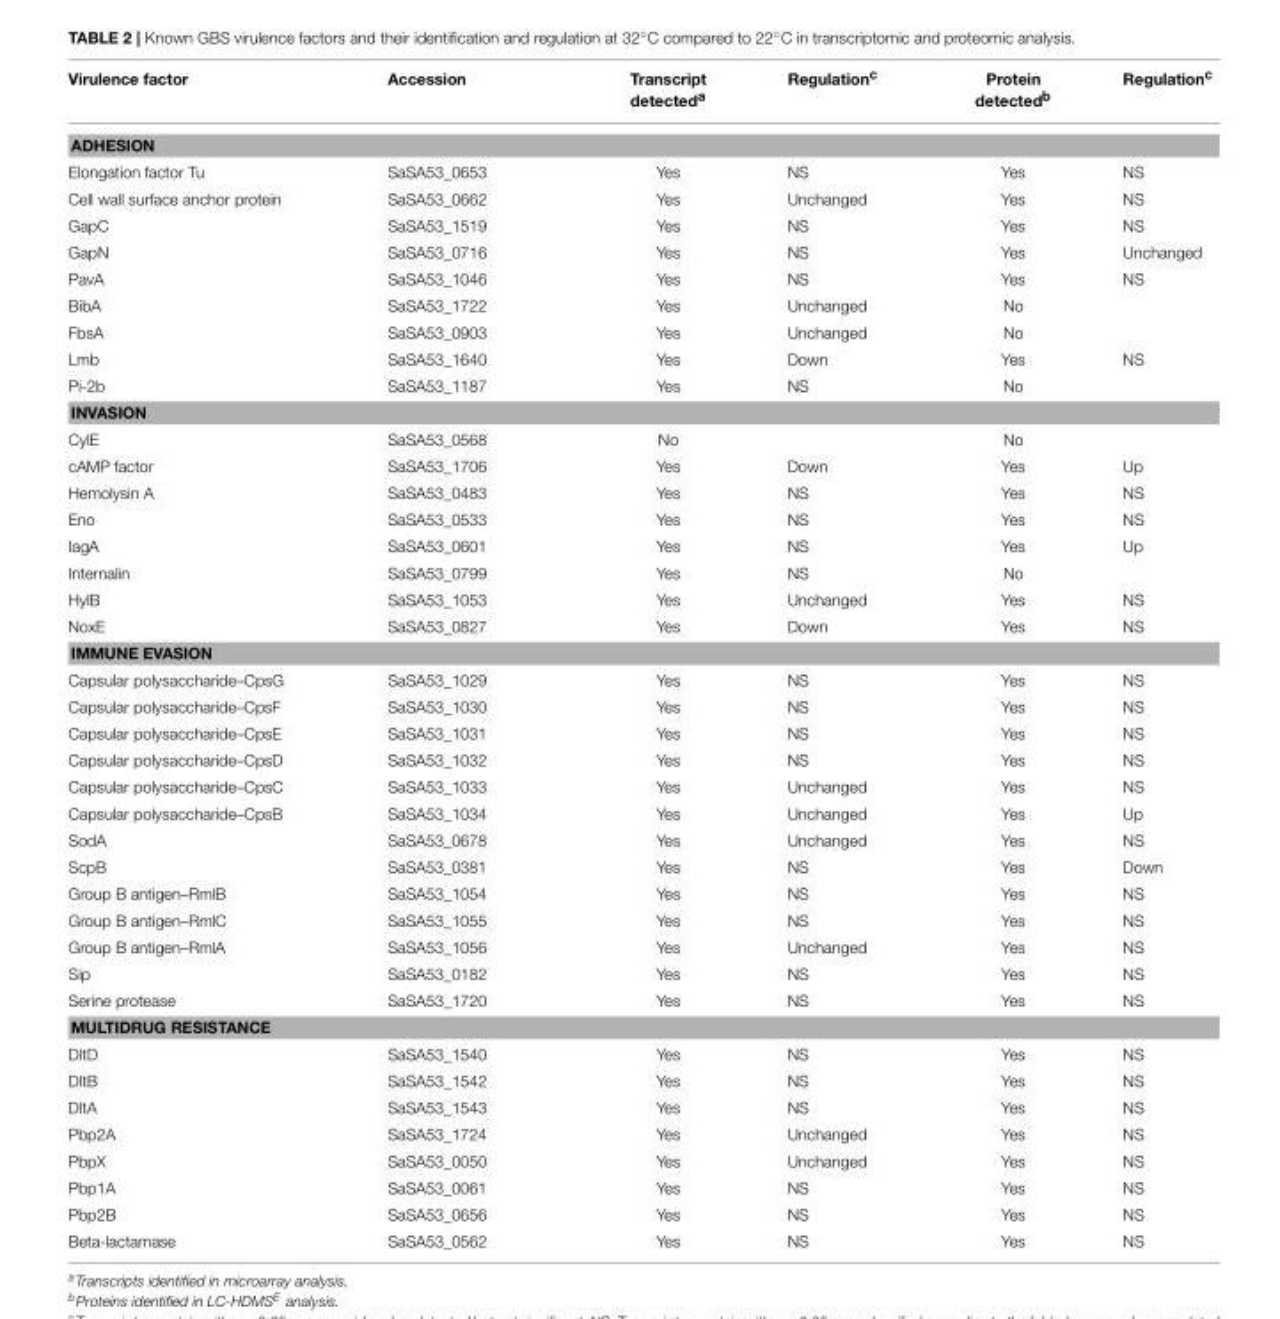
<table><thead><tr><td>Virulence factor</td><td>Accession</td><td>Transcript detected<sup>a</sup></td><td>Regulation<sup>c</sup></td><td>Protein detected<sup>b</sup></td><td>Regulation<sup>c</sup></td></tr></thead><tbody><tr><td colspan="6">ADHESION</td></tr><tr><td>Elongation factor Tu</td><td>SaSA53_0653</td><td>Yes</td><td>NS</td><td>Yes</td><td>NS</td></tr><tr><td>Cell wall surface anchor protein</td><td>SaSA53_0662</td><td>Yes</td><td>Unchanged</td><td>Yes</td><td>NS</td></tr><tr><td>GapC</td><td>SaSA53_1519</td><td>Yes</td><td>NS</td><td>Yes</td><td>NS</td></tr><tr><td>GapN</td><td>SaSA53_0716</td><td>Yes</td><td>NS</td><td>Yes</td><td>Unchanged</td></tr><tr><td>PavA</td><td>SaSA53_1046</td><td>Yes</td><td>NS</td><td>Yes</td><td>NS</td></tr><tr><td>BibA</td><td>SaSA53_1722</td><td>Yes</td><td>Unchanged</td><td>No</td><td></td></tr><tr><td>FbsA</td><td>SaSA53_0903</td><td>Yes</td><td>Unchanged</td><td>No</td><td></td></tr><tr><td>Lmb</td><td>SaSA53_1640</td><td>Yes</td><td>Down</td><td>Yes</td><td>NS</td></tr><tr><td>Pi-2b</td><td>SaSA53_1187</td><td>Yes</td><td>NS</td><td>No</td><td></td></tr><tr><td colspan="6">INVASION</td></tr><tr><td>CylE</td><td>SaSA53_0568</td><td>No</td><td></td><td>No</td><td></td></tr><tr><td>cAMP factor</td><td>SaSA53_1706</td><td>Yes</td><td>Down</td><td>Yes</td><td>Up</td></tr><tr><td>Hemolysin A</td><td>SaSA53_0483</td><td>Yes</td><td>NS</td><td>Yes</td><td>NS</td></tr><tr><td>Eno</td><td>SaSA53_0533</td><td>Yes</td><td>NS</td><td>Yes</td><td>NS</td></tr><tr><td>IagA</td><td>SaSA53_0601</td><td>Yes</td><td>NS</td><td>Yes</td><td>Up</td></tr><tr><td>Internalin</td><td>SaSA53_0799</td><td>Yes</td><td>NS</td><td>No</td><td></td></tr><tr><td>HylB</td><td>SaSA53_1053</td><td>Yes</td><td>Unchanged</td><td>Yes</td><td>NS</td></tr><tr><td>NoxE</td><td>SaSA53_0827</td><td>Yes</td><td>Down</td><td>Yes</td><td>NS</td></tr><tr><td colspan="6">IMMUNE EVASION</td></tr><tr><td>Capsular polysaccharide–CpsG</td><td>SaSA53_1029</td><td>Yes</td><td>NS</td><td>Yes</td><td>NS</td></tr><tr><td>Capsular polysaccharide–CpsF</td><td>SaSA53_1030</td><td>Yes</td><td>NS</td><td>Yes</td><td>NS</td></tr><tr><td>Capsular polysaccharide–CpsE</td><td>SaSA53_1031</td><td>Yes</td><td>NS</td><td>Yes</td><td>NS</td></tr><tr><td>Capsular polysaccharide–CpsD</td><td>SaSA53_1032</td><td>Yes</td><td>NS</td><td>Yes</td><td>NS</td></tr><tr><td>Capsular polysaccharide–CpsC</td><td>SaSA53_1033</td><td>Yes</td><td>Unchanged</td><td>Yes</td><td>NS</td></tr><tr><td>Capsular polysaccharide–CpsB</td><td>SaSA53_1034</td><td>Yes</td><td>Unchanged</td><td>Yes</td><td>Up</td></tr><tr><td>SodA</td><td>SaSA53_0678</td><td>Yes</td><td>Unchanged</td><td>Yes</td><td>NS</td></tr><tr><td>ScpB</td><td>SaSA53_0381</td><td>Yes</td><td>NS</td><td>Yes</td><td>Down</td></tr><tr><td>Group B antigen–RmlB</td><td>SaSA53_1054</td><td>Yes</td><td>NS</td><td>Yes</td><td>NS</td></tr><tr><td>Group B antigen–RmlC</td><td>SaSA53_1055</td><td>Yes</td><td>NS</td><td>Yes</td><td>NS</td></tr><tr><td>Group B antigen–RmlA</td><td>SaSA53_1056</td><td>Yes</td><td>Unchanged</td><td>Yes</td><td>NS</td></tr><tr><td>Sip</td><td>SaSA53_0182</td><td>Yes</td><td>NS</td><td>Yes</td><td>NS</td></tr><tr><td>Serine protease</td><td>SaSA53_1720</td><td>Yes</td><td>NS</td><td>Yes</td><td>NS</td></tr><tr><td colspan="6">MULTIDRUG RESISTANCE</td></tr><tr><td>DltD</td><td>SaSA53_1540</td><td>Yes</td><td>NS</td><td>Yes</td><td>NS</td></tr><tr><td>DltB</td><td>SaSA53_1542</td><td>Yes</td><td>NS</td><td>Yes</td><td>NS</td></tr><tr><td>DltA</td><td>SaSA53_1543</td><td>Yes</td><td>NS</td><td>Yes</td><td>NS</td></tr><tr><td>Pbp2A</td><td>SaSA53_1724</td><td>Yes</td><td>Unchanged</td><td>Yes</td><td>NS</td></tr><tr><td>PbpX</td><td>SaSA53_0050</td><td>Yes</td><td>Unchanged</td><td>Yes</td><td>NS</td></tr><tr><td>Pbp1A</td><td>SaSA53_0061</td><td>Yes</td><td>NS</td><td>Yes</td><td>NS</td></tr><tr><td>Pbp2B</td><td>SaSA53_0656</td><td>Yes</td><td>NS</td><td>Yes</td><td>NS</td></tr><tr><td>Beta-lactamase</td><td>SaSA53_0562</td><td>Yes</td><td>NS</td><td>Yes</td><td>NS</td></tr></tbody></table>